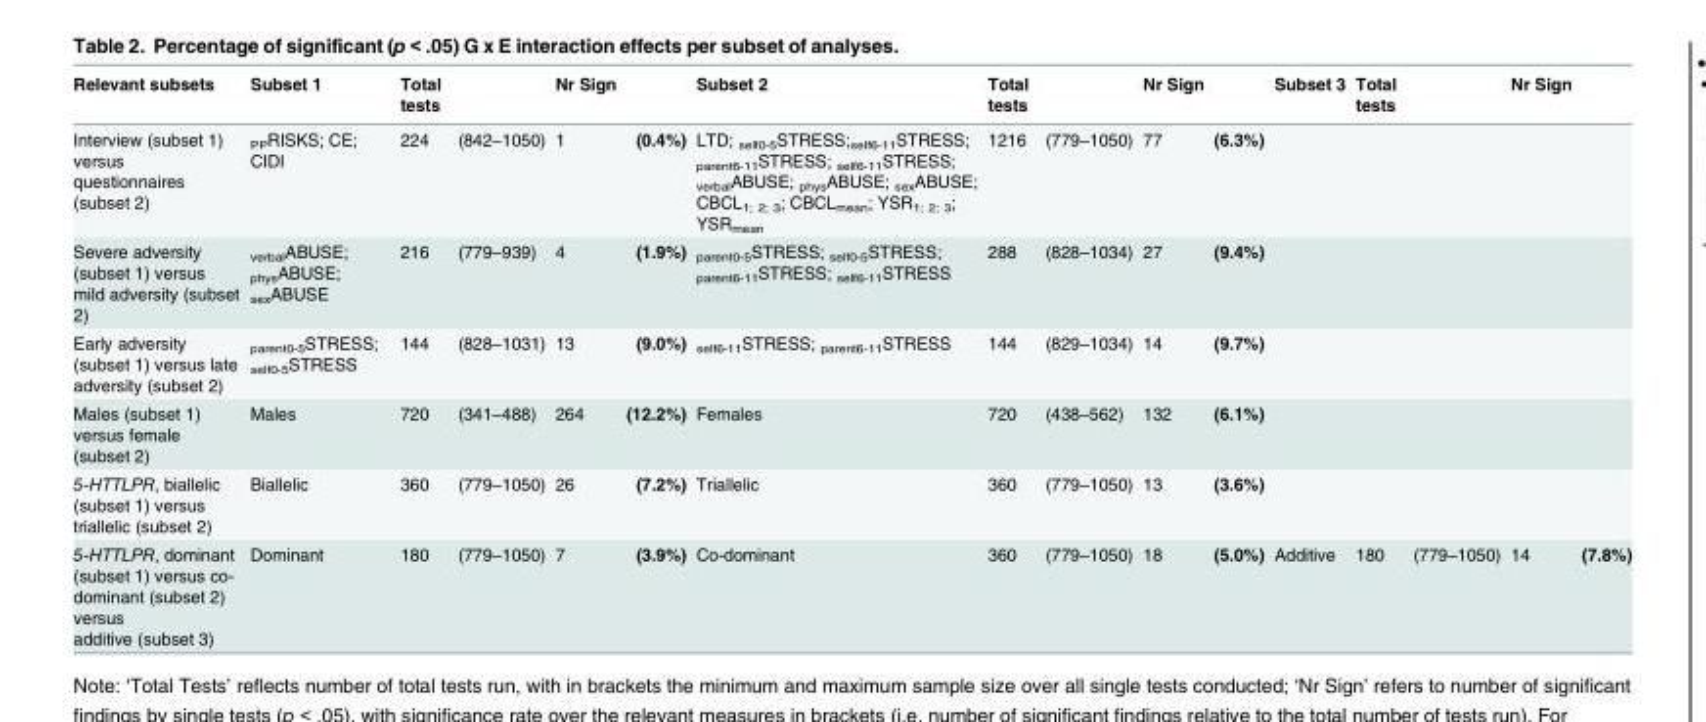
<table><thead><tr><td>Relevant subsets</td><td>Subset 1</td><td>Total tests</td><td></td><td>Nr Sign</td><td></td><td>Subset 2</td><td>Total tests</td><td></td><td>Nr Sign</td><td></td><td>Subset 3</td><td>Total tests</td><td></td><td>Nr Sign</td><td></td></tr></thead><tbody><tr><td>Interview (subset 1) versus questionnaires (subset 2)</td><td><sub>PP</sub>RISKS; CE; CIDI</td><td>224</td><td>(842–1050)</td><td>1</td><td>(0.4%)</td><td>LTD; <sub>self0-5</sub>STRESS;<sub>self6-11</sub>STRESS; <sub>parent6-11</sub>STRESS; <sub>self6-11</sub>STRESS; <sub>verbal</sub>ABUSE; <sub>phys</sub>ABUSE; <sub>sex</sub>ABUSE; CBCL<sub>1; 2; 3</sub>; CBCL<sub>mean</sub>; YSR<sub>1; 2; 3</sub>; YSR<sub>mean</sub></td><td>1216</td><td>(779–1050)</td><td>77</td><td>(6.3%)</td><td></td><td></td><td></td><td></td><td></td></tr><tr><td>Severe adversity (subset 1) versus mild adversity (subset 2)</td><td><sub>verbal</sub>ABUSE; <sub>phys</sub>ABUSE; <sub>sex</sub>ABUSE</td><td>216</td><td>(779–939)</td><td>4</td><td>(1.9%)</td><td><sub>parent0-5</sub>STRESS; <sub>self0-5</sub>STRESS; <sub>parent6-11</sub>STRESS; <sub>self6-11</sub>STRESS</td><td>288</td><td>(828–1034)</td><td>27</td><td>(9.4%)</td><td></td><td></td><td></td><td></td><td></td></tr><tr><td>Early adversity (subset 1) versus late adversity (subset 2)</td><td><sub>parent0-5</sub>STRESS; <sub>self0-5</sub>STRESS</td><td>144</td><td>(828–1031)</td><td>13</td><td>(9.0%)</td><td><sub>self6-11</sub>STRESS; <sub>parent6-11</sub>STRESS</td><td>144</td><td>(829–1034)</td><td>14</td><td>(9.7%)</td><td></td><td></td><td></td><td></td><td></td></tr><tr><td>Males (subset 1) versus female (subset 2)</td><td>Males</td><td>720</td><td>(341–488)</td><td>264</td><td>(12.2%)</td><td>Females</td><td>720</td><td>(438–562)</td><td>132</td><td>(6.1%)</td><td></td><td></td><td></td><td></td><td></td></tr><tr><td>5-HTTLPR, biallelic (subset 1) versus triallelic (subset 2)</td><td>Biallelic</td><td>360</td><td>(779–1050)</td><td>26</td><td>(7.2%)</td><td>Triallelic</td><td>360</td><td>(779–1050)</td><td>13</td><td>(3.6%)</td><td></td><td></td><td></td><td></td><td></td></tr><tr><td>5-HTTLPR, dominant (subset 1) versus co- dominant (subset 2) versus additive (subset 3)</td><td>Dominant</td><td>180</td><td>(779–1050)</td><td>7</td><td>(3.9%)</td><td>Co-dominant</td><td>360</td><td>(779–1050)</td><td>18</td><td>(5.0%)</td><td>Additive</td><td>180</td><td>(779–1050)</td><td>14</td><td>(7.8%)</td></tr></tbody></table>